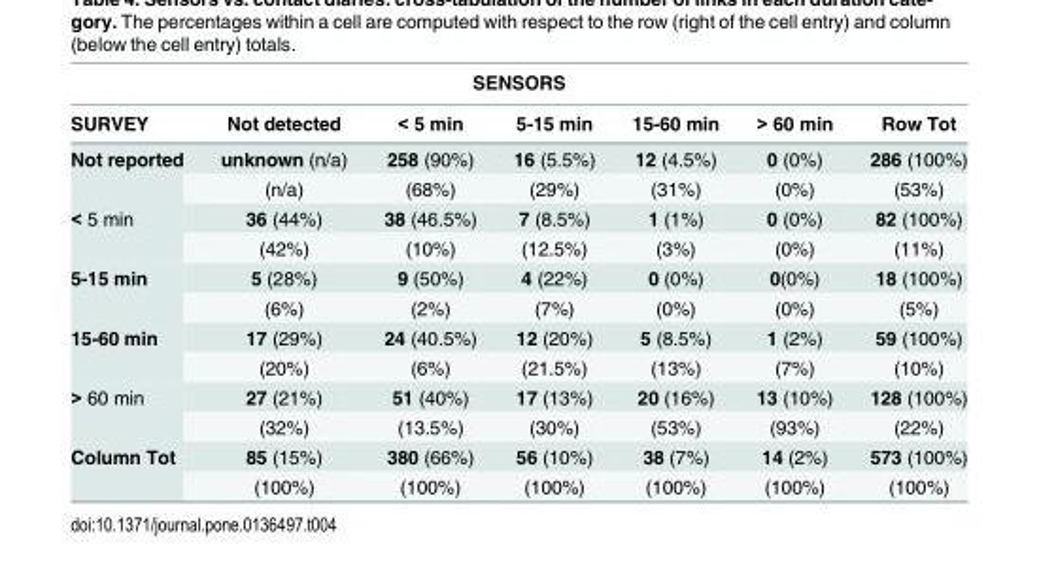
<table><thead><tr><td colspan="7">SENSORS</td></tr><tr><td>SURVEY</td><td>Not detected</td><td>&lt; 5 min</td><td>5-15 min</td><td>15-60 min</td><td>&gt; 60 min</td><td>Row Tot</td></tr></thead><tbody><tr><td rowspan="2">Not reported</td><td>unknown (n/a)</td><td>258 (90%)</td><td>16 (5.5%)</td><td>12 (4.5%)</td><td>0 (0%)</td><td>286 (100%)</td></tr><tr><td>(n/a)</td><td>(68%)</td><td>(29%)</td><td>(31%)</td><td>(0%)</td><td>(53%)</td></tr><tr><td rowspan="2">&lt; 5 min</td><td>36 (44%)</td><td>38 (46.5%)</td><td>7 (8.5%)</td><td>1 (1%)</td><td>0 (0%)</td><td>82 (100%)</td></tr><tr><td>(42%)</td><td>(10%)</td><td>(12.5%)</td><td>(3%)</td><td>(0%)</td><td>(11%)</td></tr><tr><td rowspan="2">5-15 min</td><td>5 (28%)</td><td>9 (50%)</td><td>4 (22%)</td><td>0 (0%)</td><td>0(0%)</td><td>18 (100%)</td></tr><tr><td>(6%)</td><td>(2%)</td><td>(7%)</td><td>(0%)</td><td>(0%)</td><td>(5%)</td></tr><tr><td rowspan="2">15-60 min</td><td>17 (29%)</td><td>24 (40.5%)</td><td>12 (20%)</td><td>5 (8.5%)</td><td>1 (2%)</td><td>59 (100%)</td></tr><tr><td>(20%)</td><td>(6%)</td><td>(21.5%)</td><td>(13%)</td><td>(7%)</td><td>(10%)</td></tr><tr><td rowspan="2">&gt; 60 min</td><td>27 (21%)</td><td>51 (40%)</td><td>17 (13%)</td><td>20 (16%)</td><td>13 (10%)</td><td>128 (100%)</td></tr><tr><td>(32%)</td><td>(13.5%)</td><td>(30%)</td><td>(53%)</td><td>(93%)</td><td>(22%)</td></tr><tr><td rowspan="2">Column Tot</td><td>85 (15%)</td><td>380 (66%)</td><td>56 (10%)</td><td>38 (7%)</td><td>14 (2%)</td><td>573 (100%)</td></tr><tr><td>(100%)</td><td>(100%)</td><td>(100%)</td><td>(100%)</td><td>(100%)</td><td>(100%)</td></tr></tbody></table>